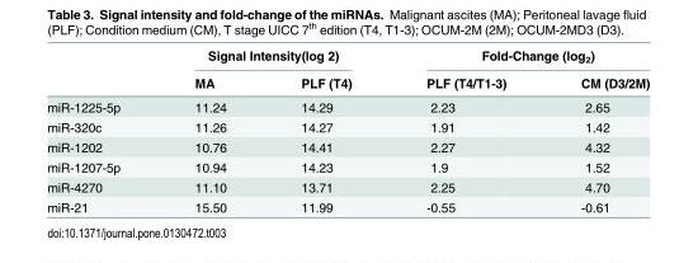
<table><thead><tr><td rowspan="2"></td><td colspan="2">Signal Intensity(log 2)</td><td colspan="2">Fold-Change (log<sub>2</sub>)</td></tr><tr><td>MA</td><td>PLF (T4)</td><td>PLF (T4/T1-3)</td><td>CM (D3/2M)</td></tr></thead><tbody><tr><td>miR-1225-5p</td><td>11.24</td><td>14.29</td><td>2.23</td><td>2.65</td></tr><tr><td>miR-320c</td><td>11.26</td><td>14.27</td><td>1.91</td><td>1.42</td></tr><tr><td>miR-1202</td><td>10.76</td><td>14.41</td><td>2.27</td><td>4.32</td></tr><tr><td>miR-1207-5p</td><td>10.94</td><td>14.23</td><td>1.9</td><td>1.52</td></tr><tr><td>miR-4270</td><td>11.10</td><td>13.71</td><td>2.25</td><td>4.70</td></tr><tr><td>miR-21</td><td>15.50</td><td>11.99</td><td>-0.55</td><td>-0.61</td></tr></tbody></table>